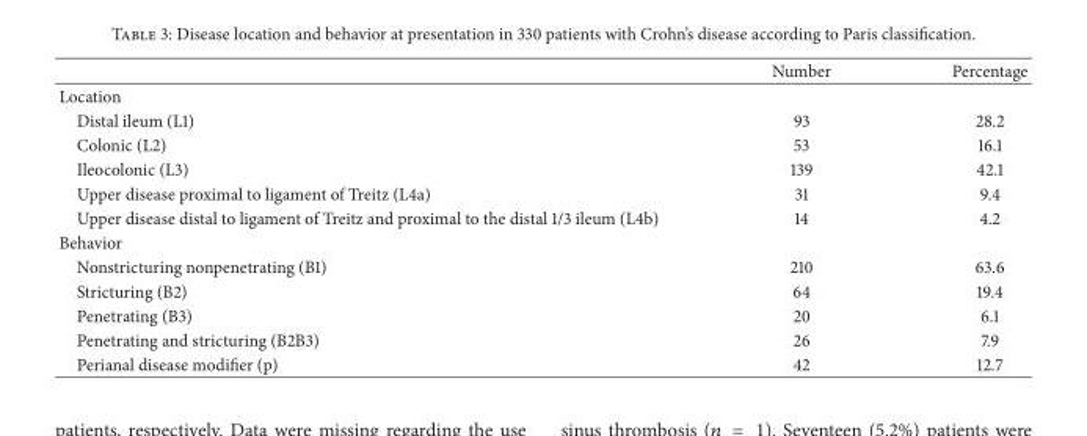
<table><thead><tr><td></td><td>Number</td><td>Percentage</td></tr></thead><tbody><tr><td colspan="3">Location</td></tr><tr><td>Distal ileum (L1)</td><td>93</td><td>28.2</td></tr><tr><td>Colonic (L2)</td><td>53</td><td>16.1</td></tr><tr><td>Ileocolonic (L3)</td><td>139</td><td>42.1</td></tr><tr><td>Upper disease proximal to ligament of Treitz (L4a)</td><td>31</td><td>9.4</td></tr><tr><td>Upper disease distal to ligament of Treitz and proximal to the distal 1/3 ileum (L4b)</td><td>14</td><td>4.2</td></tr><tr><td colspan="3">Behavior</td></tr><tr><td>Nonstricturing nonpenetrating (B1)</td><td>210</td><td>63.6</td></tr><tr><td>Stricturing (B2)</td><td>64</td><td>19.4</td></tr><tr><td>Penetrating (B3)</td><td>20</td><td>6.1</td></tr><tr><td>Penetrating and stricturing (B2B3)</td><td>26</td><td>7.9</td></tr><tr><td>Perianal disease modifier (p)</td><td>42</td><td>12.7</td></tr></tbody></table>